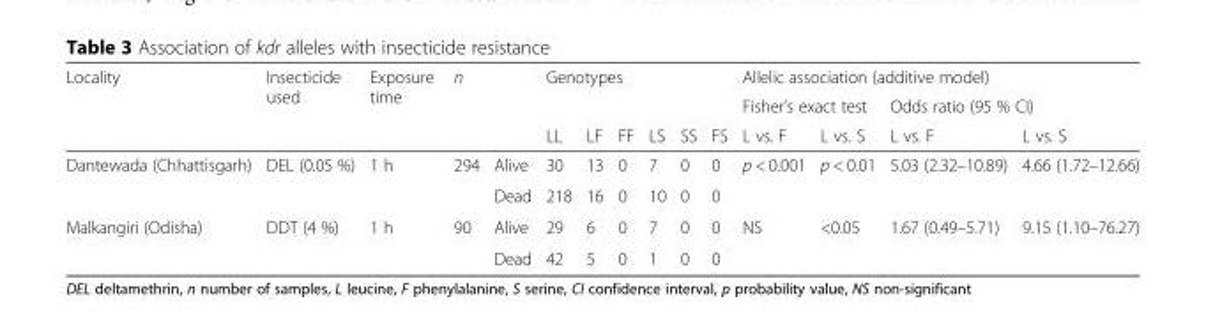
<table><thead><tr><td rowspan="3">Locality</td><td rowspan="3">Insecticide used</td><td rowspan="3">Exposure time</td><td rowspan="3">n</td><td rowspan="3"></td><td rowspan="2" colspan="6">Genotypes</td><td colspan="4">Allelic association (additive model)</td></tr><tr><td colspan="2">Fisher’s exact test</td><td colspan="2">Odds ratio (95 % CI)</td></tr><tr><td>LL</td><td>LF</td><td>FF</td><td>LS</td><td>SS</td><td>FS</td><td>L vs. F</td><td>L vs. S</td><td>L vs. F</td><td>L vs. S</td></tr></thead><tbody><tr><td rowspan="2">Dantewada (Chhattisgarh)</td><td rowspan="2">DEL (0.05 %)</td><td rowspan="2">1 h</td><td rowspan="2">294</td><td>Alive</td><td>30</td><td>13</td><td>0</td><td>7</td><td>0</td><td>0</td><td rowspan="2">p &lt; 0.001</td><td rowspan="2">p &lt; 0.01</td><td rowspan="2">5.03 (2.32–10.89)</td><td rowspan="2">4.66 (1.72–12.66)</td></tr><tr><td>Dead</td><td>218</td><td>16</td><td>0</td><td>10</td><td>0</td><td>0</td></tr><tr><td rowspan="2">Malkangiri (Odisha)</td><td rowspan="2">DDT (4 %)</td><td rowspan="2">1 h</td><td rowspan="2">90</td><td>Alive</td><td>29</td><td>6</td><td>0</td><td>7</td><td>0</td><td>0</td><td rowspan="2">NS</td><td rowspan="2">&lt;0.05</td><td rowspan="2">1.67 (0.49–5.71)</td><td rowspan="2">9.15 (1.10–76.27)</td></tr><tr><td>Dead</td><td>42</td><td>5</td><td>0</td><td>1</td><td>0</td><td>0</td></tr></tbody></table>